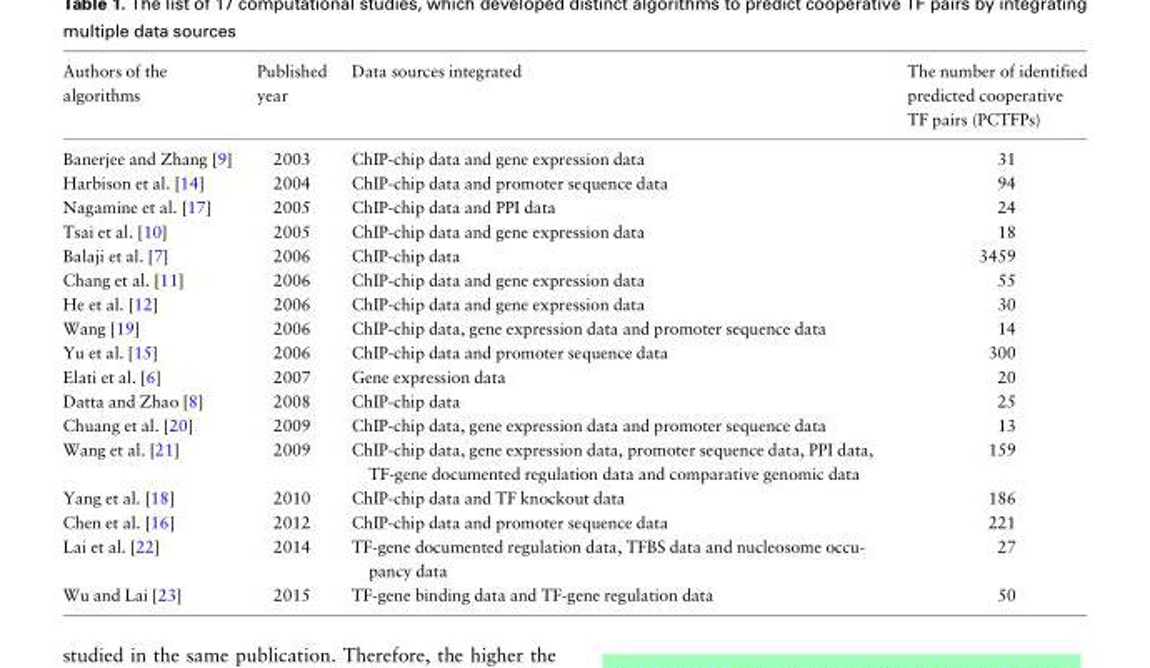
<table><thead><tr><td>Authors of the algorithms</td><td>Published year</td><td>Data sources integrated</td><td>The number of identified predicted cooperative TF pairs (PCTFPs)</td></tr></thead><tbody><tr><td>Banerjee and Zhang [9]</td><td>2003</td><td>ChIP-chip data and gene expression data</td><td>31</td></tr><tr><td>Harbison et al. [14]</td><td>2004</td><td>ChIP-chip data and promoter sequence data</td><td>94</td></tr><tr><td>Nagamine et al. [17]</td><td>2005</td><td>ChIP-chip data and PPI data</td><td>24</td></tr><tr><td>Tsai et al. [10]</td><td>2005</td><td>ChIP-chip data and gene expression data</td><td>18</td></tr><tr><td>Balaji et al. [7]</td><td>2006</td><td>ChIP-chip data</td><td>3459</td></tr><tr><td>Chang et al. [11]</td><td>2006</td><td>ChIP-chip data and gene expression data</td><td>55</td></tr><tr><td>He et al. [12]</td><td>2006</td><td>ChIP-chip data and gene expression data</td><td>30</td></tr><tr><td>Wang [19]</td><td>2006</td><td>ChIP-chip data, gene expression data and promoter sequence data</td><td>14</td></tr><tr><td>Yu et al. [15]</td><td>2006</td><td>ChIP-chip data and promoter sequence data</td><td>300</td></tr><tr><td>Elati et al. [6]</td><td>2007</td><td>Gene expression data</td><td>20</td></tr><tr><td>Datta and Zhao [8]</td><td>2008</td><td>ChIP-chip data</td><td>25</td></tr><tr><td>Chuang et al. [20]</td><td>2009</td><td>ChIP-chip data, gene expression data and promoter sequence data</td><td>13</td></tr><tr><td>Wang et al. [21]</td><td>2009</td><td>ChIP-chip data, gene expression data, promoter sequence data, PPI data, TF-gene documented regulation data and comparative genomic data</td><td>159</td></tr><tr><td>Yang et al. [18]</td><td>2010</td><td>ChIP-chip data and TF knockout data</td><td>186</td></tr><tr><td>Chen et al. [16]</td><td>2012</td><td>ChIP-chip data and promoter sequence data</td><td>221</td></tr><tr><td>Lai et al. [22]</td><td>2014</td><td>TF-gene documented regulation data, TFBS data and nucleosome occu- pancy data</td><td>27</td></tr><tr><td>Wu and Lai [23]</td><td>2015</td><td>TF-gene binding data and TF-gene regulation data</td><td>50</td></tr></tbody></table>